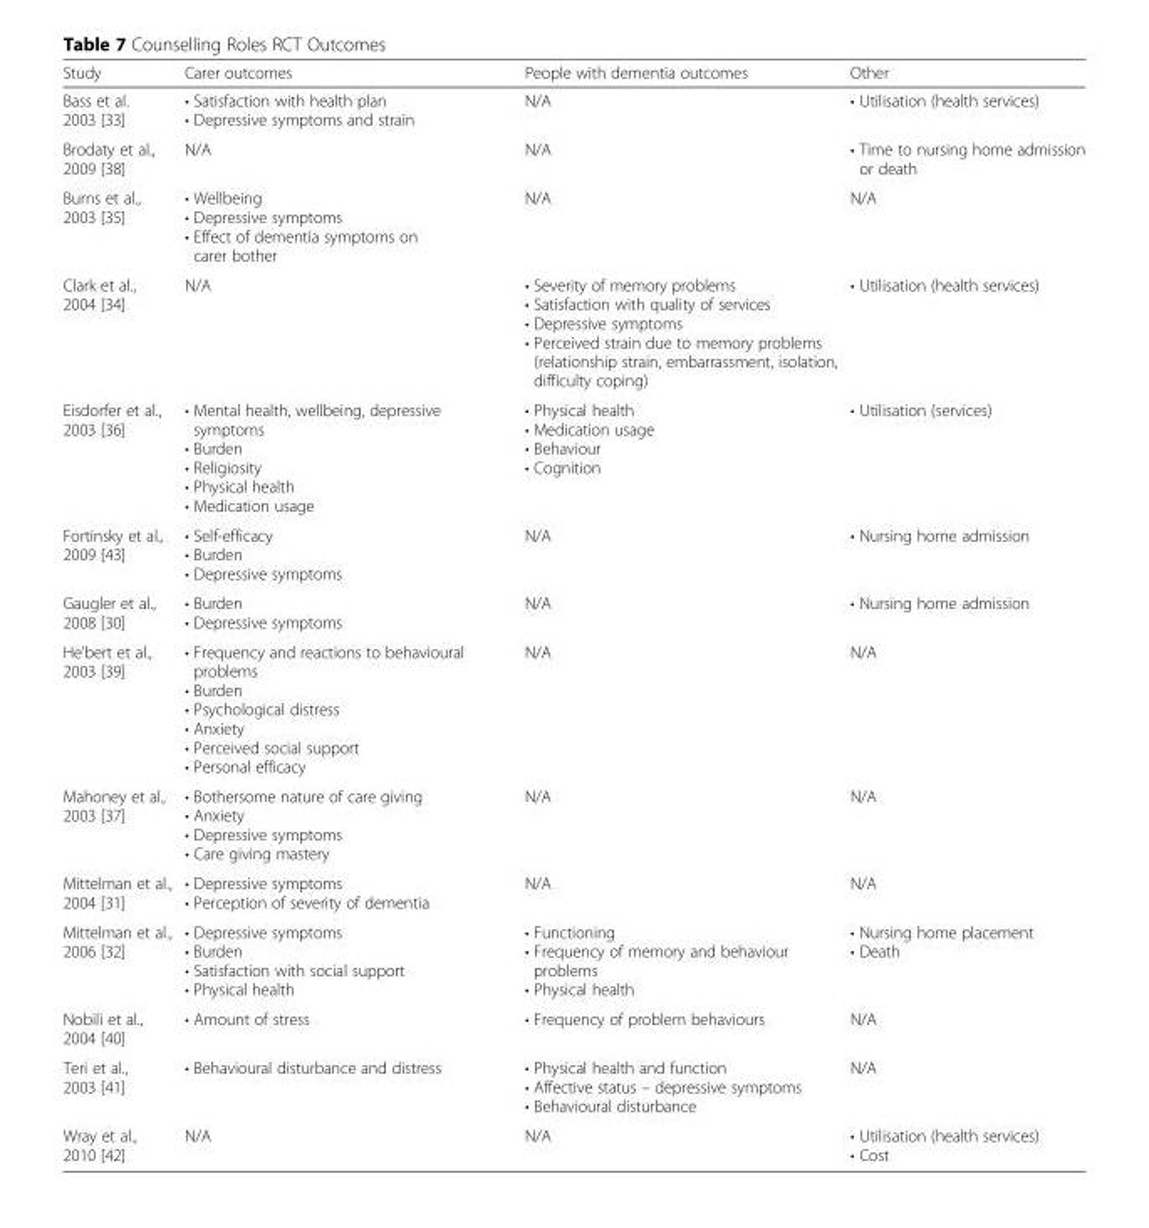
<table><thead><tr><td>Study</td><td>Carer outcomes</td><td>People with dementia outcomes</td><td>Other</td></tr></thead><tbody><tr><td>Bass et al. 2003 [33]</td><td>• Satisfaction with health plan • Depressive symptoms and strain</td><td>N/A</td><td>• Utilisation (health services)</td></tr><tr><td>Brodaty et al., 2009 [38]</td><td>N/A</td><td>N/A</td><td>• Time to nursing home admission or death</td></tr><tr><td>Burns et al., 2003 [35]</td><td>• Wellbeing • Depressive symptoms • Effect of dementia symptoms on carer bother</td><td>N/A</td><td>N/A</td></tr><tr><td>Clark et al., 2004 [34]</td><td>N/A</td><td>• Severity of memory problems • Satisfaction with quality of services • Depressive symptoms • Perceived strain due to memory problems (relationship strain, embarrassment, isolation, difficulty coping)</td><td>• Utilisation (health services)</td></tr><tr><td>Eisdorfer et al., 2003 [36]</td><td>• Mental health, wellbeing, depressive symptoms • Burden • Religiosity • Physical health • Medication usage</td><td>• Physical health • Medication usage • Behaviour • Cognition</td><td>• Utilisation (services)</td></tr><tr><td>Fortinsky et al., 2009 [43]</td><td>• Self-efficacy • Burden • Depressive symptoms</td><td>N/A</td><td>• Nursing home admission</td></tr><tr><td>Gaugler et al., 2008 [30]</td><td>• Burden • Depressive symptoms</td><td>N/A</td><td>• Nursing home admission</td></tr><tr><td>He’bert et al., 2003 [39]</td><td>• Frequency and reactions to behavioural problems • Burden • Psychological distress • Anxiety • Perceived social support • Personal efficacy</td><td>N/A</td><td>N/A</td></tr><tr><td>Mahoney et al., 2003 [37]</td><td>• Bothersome nature of care giving • Anxiety • Depressive symptoms • Care giving mastery</td><td>N/A</td><td>N/A</td></tr><tr><td>Mittelman et al., 2004 [31]</td><td>• Depressive symptoms • Perception of severity of dementia</td><td>N/A</td><td>N/A</td></tr><tr><td>Mittelman et al., 2006 [32]</td><td>• Depressive symptoms • Burden • Satisfaction with social support • Physical health</td><td>• Functioning • Frequency of memory and behaviour problems • Physical health</td><td>• Nursing home placement • Death</td></tr><tr><td>Nobili et al., 2004 [40]</td><td>• Amount of stress</td><td>• Frequency of problem behaviours</td><td>N/A</td></tr><tr><td>Teri et al., 2003 [41]</td><td>• Behavioural disturbance and distress</td><td>• Physical health and function • Affective status – depressive symptoms • Behavioural disturbance</td><td>N/A</td></tr><tr><td>Wray et al., 2010 [42]</td><td>N/A</td><td>N/A</td><td>• Utilisation (health services) • Cost</td></tr></tbody></table>